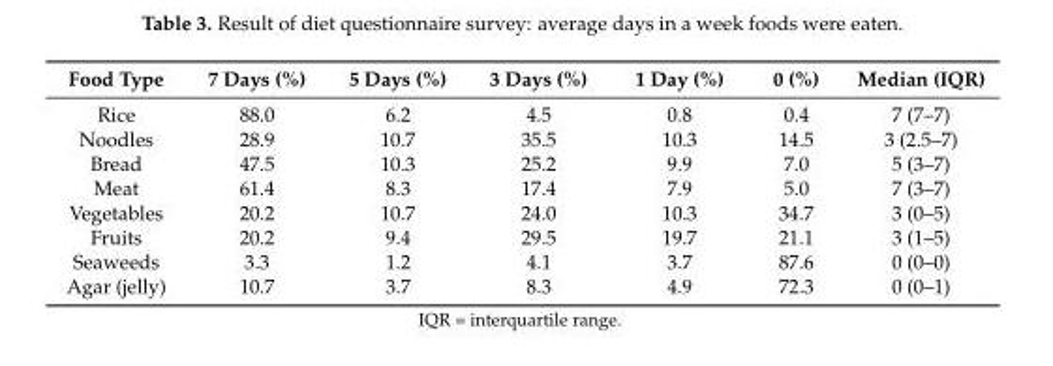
<table><thead><tr><td>Food Type</td><td>7 Days (%)</td><td>5 Days (%)</td><td>3 Days (%)</td><td>1 Day (%)</td><td>0 (%)</td><td>Median (IQR)</td></tr></thead><tbody><tr><td>Rice</td><td>88.0</td><td>6.2</td><td>4.5</td><td>0.8</td><td>0.4</td><td>7 (7–7)</td></tr><tr><td>Noodles</td><td>28.9</td><td>10.7</td><td>35.5</td><td>10.3</td><td>14.5</td><td>3 (2.5–7)</td></tr><tr><td>Bread</td><td>47.5</td><td>10.3</td><td>25.2</td><td>9.9</td><td>7.0</td><td>5 (3–7)</td></tr><tr><td>Meat</td><td>61.4</td><td>8.3</td><td>17.4</td><td>7.9</td><td>5.0</td><td>7 (3–7)</td></tr><tr><td>Vegetables</td><td>20.2</td><td>10.7</td><td>24.0</td><td>10.3</td><td>34.7</td><td>3 (0–5)</td></tr><tr><td>Fruits</td><td>20.2</td><td>9.4</td><td>29.5</td><td>19.7</td><td>21.1</td><td>3 (1–5)</td></tr><tr><td>Seaweeds</td><td>3.3</td><td>1.2</td><td>4.1</td><td>3.7</td><td>87.6</td><td>0 (0–0)</td></tr><tr><td>Agar (jelly)</td><td>10.7</td><td>3.7</td><td>8.3</td><td>4.9</td><td>72.3</td><td>0 (0–1)</td></tr></tbody></table>